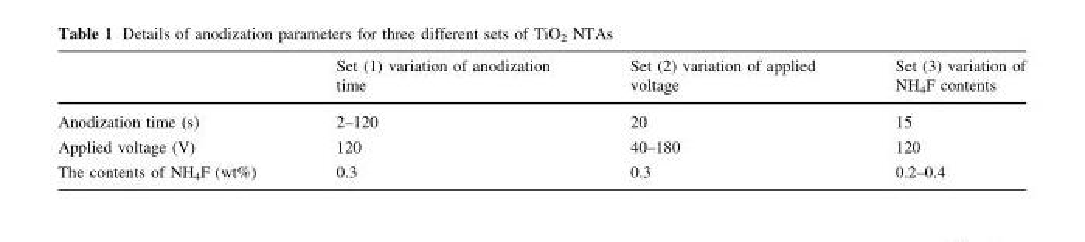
<table><thead><tr><td></td><td>Set (1) variation of anodization time</td><td>Set (2) variation of applied voltage</td><td>Set (3) variation of NH<sub>4</sub>F contents</td></tr></thead><tbody><tr><td>Anodization time (s)</td><td>2–120</td><td>20</td><td>15</td></tr><tr><td>Applied voltage (V)</td><td>120</td><td>40–180</td><td>120</td></tr><tr><td>The contents of NH<sub>4</sub>F (wt%)</td><td>0.3</td><td>0.3</td><td>0.2–0.4</td></tr></tbody></table>